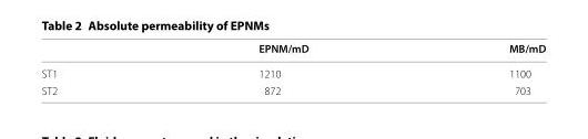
<table><thead><tr><td></td><td>EPNM/mD</td><td>MB/mD</td></tr></thead><tbody><tr><td>ST1</td><td>1210</td><td>1100</td></tr><tr><td>ST2</td><td>872</td><td>703</td></tr></tbody></table>